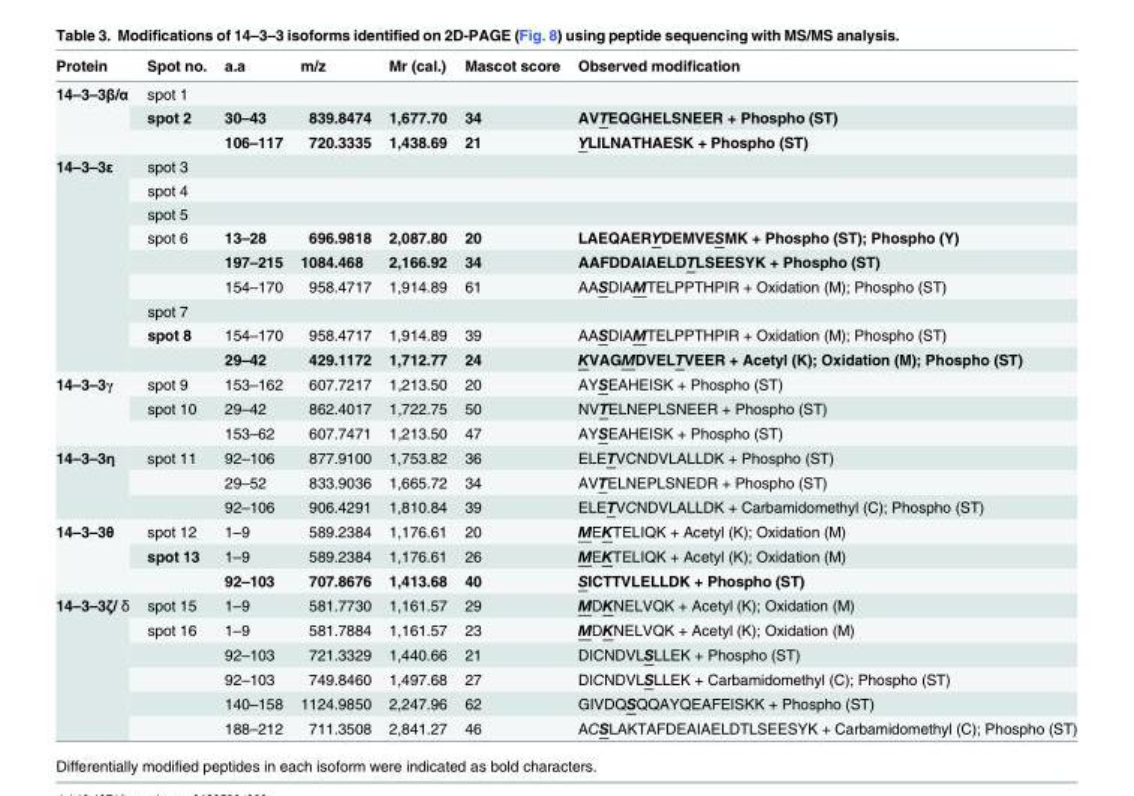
<table><thead><tr><td>Protein</td><td>Spot no.</td><td>a.a</td><td>m/z</td><td>Mr (cal.)</td><td>Mascot score</td><td>Observed modification</td></tr></thead><tbody><tr><td rowspan="3">14–3–3β/α</td><td>spot 1</td><td></td><td></td><td></td><td></td><td></td></tr><tr><td>spot 2</td><td>30–43</td><td>839.8474</td><td>1,677.70</td><td>34</td><td>AVTEQGHELSNEER + Phospho (ST)</td></tr><tr><td></td><td>106–117</td><td>720.3335</td><td>1,438.69</td><td>21</td><td>YLILNATHAESK + Phospho (ST)</td></tr><tr><td rowspan="9">14–3–3ε</td><td>spot 3</td><td></td><td></td><td></td><td></td><td></td></tr><tr><td>spot 4</td><td></td><td></td><td></td><td></td><td></td></tr><tr><td>spot 5</td><td></td><td></td><td></td><td></td><td></td></tr><tr><td>spot 6</td><td>13–28</td><td>696.9818</td><td>2,087.80</td><td>20</td><td>LAEQAERYDEMVESMK + Phospho (ST); Phospho (Y)</td></tr><tr><td></td><td>197–215</td><td>1084.468</td><td>2,166.92</td><td>34</td><td>AAFDDAIAELDTLSEESYK + Phospho (ST)</td></tr><tr><td></td><td>154–170</td><td>958.4717</td><td>1,914.89</td><td>61</td><td>AASDIAMTELPPTHPIR + Oxidation (M); Phospho (ST)</td></tr><tr><td>spot 7</td><td></td><td></td><td></td><td></td><td></td></tr><tr><td>spot 8</td><td>154–170</td><td>958.4717</td><td>1,914.89</td><td>39</td><td>AASDIAMTELPPTHPIR + Oxidation (M); Phospho (ST)</td></tr><tr><td></td><td>29–42</td><td>429.1172</td><td>1,712.77</td><td>24</td><td>KVAGMDVELTVEER + Acetyl (K); Oxidation (M); Phospho (ST)</td></tr><tr><td rowspan="3">14–3–3γ</td><td>spot 9</td><td>153–162</td><td>607.7217</td><td>1,213.50</td><td>20</td><td>AYSEAHEISK + Phospho (ST)</td></tr><tr><td>spot 10</td><td>29–42</td><td>862.4017</td><td>1,722.75</td><td>50</td><td>NVTELNEPLSNEER + Phospho (ST)</td></tr><tr><td></td><td>153–62</td><td>607.7471</td><td>1,213.50</td><td>47</td><td>AYSEAHEISK + Phospho (ST)</td></tr><tr><td rowspan="3">14–3–3η</td><td>spot 11</td><td>92–106</td><td>877.9100</td><td>1,753.82</td><td>36</td><td>ELETVCNDVLALLDK + Phospho (ST)</td></tr><tr><td></td><td>29–52</td><td>833.9036</td><td>1,665.72</td><td>34</td><td>AVTELNEPLSNEDR + Phospho (ST)</td></tr><tr><td></td><td>92–106</td><td>906.4291</td><td>1,810.84</td><td>39</td><td>ELETVCNDVLALLDK + Carbamidomethyl (C); Phospho (ST)</td></tr><tr><td rowspan="3">14–3–3θ</td><td>spot 12</td><td>1–9</td><td>589.2384</td><td>1,176.61</td><td>20</td><td>MEKTELIQK + Acetyl (K); Oxidation (M)</td></tr><tr><td>spot 13</td><td>1–9</td><td>589.2384</td><td>1,176.61</td><td>26</td><td>MEKTELIQK + Acetyl (K); Oxidation (M)</td></tr><tr><td></td><td>92–103</td><td>707.8676</td><td>1,413.68</td><td>40</td><td>SICTTVLELLDK + Phospho (ST)</td></tr><tr><td rowspan="6">14–3–3ζ/ δ</td><td>spot 15</td><td>1–9</td><td>581.7730</td><td>1,161.57</td><td>29</td><td>MDKNELVQK + Acetyl (K); Oxidation (M)</td></tr><tr><td>spot 16</td><td>1–9</td><td>581.7884</td><td>1,161.57</td><td>23</td><td>MDKNELVQK + Acetyl (K); Oxidation (M)</td></tr><tr><td></td><td>92–103</td><td>721.3329</td><td>1,440.66</td><td>21</td><td>DICNDVLSLLEK + Phospho (ST)</td></tr><tr><td></td><td>92–103</td><td>749.8460</td><td>1,497.68</td><td>27</td><td>DICNDVLSLLEK + Carbamidomethyl (C); Phospho (ST)</td></tr><tr><td></td><td>140–158</td><td>1124.9850</td><td>2,247.96</td><td>62</td><td>GIVDQSQQAYQEAFEISKK + Phospho (ST)</td></tr><tr><td></td><td>188–212</td><td>711.3508</td><td>2,841.27</td><td>46</td><td>ACSLAKTAFDEAIAELDTLSEESYK + Carbamidomethyl (C); Phospho (ST)</td></tr></tbody></table>